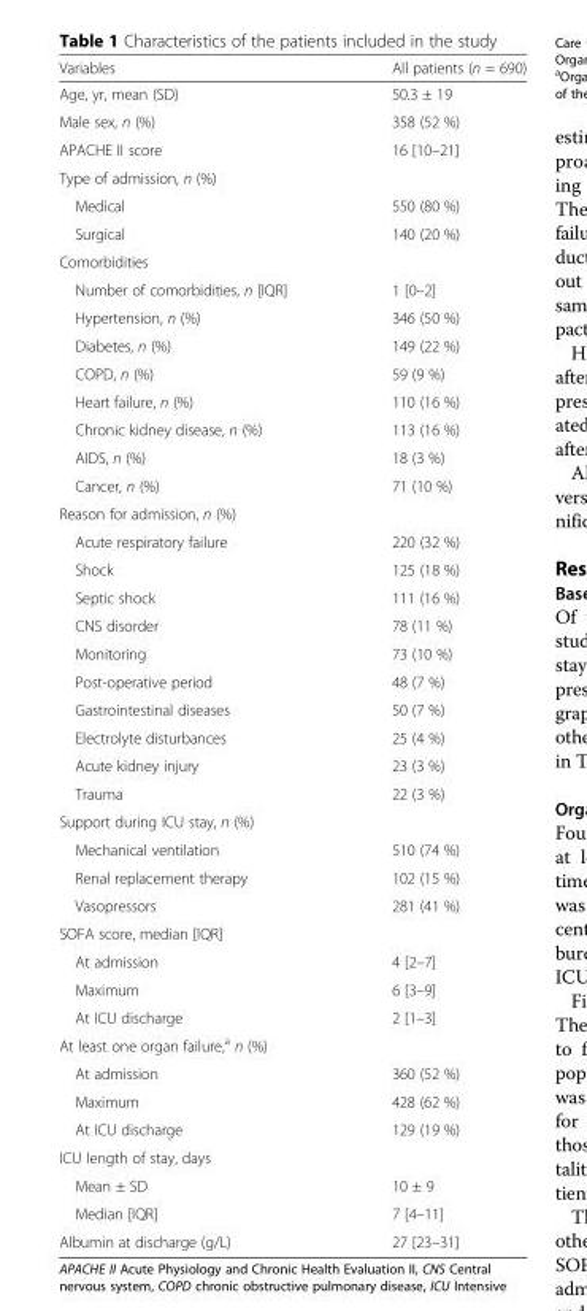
<table><thead><tr><td>Variables</td><td>All patients (n = 690)</td></tr></thead><tbody><tr><td>Age, yr, mean (SD)</td><td>50.3 ± 19</td></tr><tr><td>Male sex, n (%)</td><td>358 (52 %)</td></tr><tr><td>APACHE II score</td><td>16 [10–21]</td></tr><tr><td colspan="2">Type of admission, n (%)</td></tr><tr><td>Medical</td><td>550 (80 %)</td></tr><tr><td>Surgical</td><td>140 (20 %)</td></tr><tr><td colspan="2">Comorbidities</td></tr><tr><td>Number of comorbidities, n [IQR]</td><td>1 [0–2]</td></tr><tr><td>Hypertension, n (%)</td><td>346 (50 %)</td></tr><tr><td>Diabetes, n (%)</td><td>149 (22 %)</td></tr><tr><td>COPD, n (%)</td><td>59 (9 %)</td></tr><tr><td>Heart failure, n (%)</td><td>110 (16 %)</td></tr><tr><td>Chronic kidney disease, n (%)</td><td>113 (16 %)</td></tr><tr><td>AIDS, n (%)</td><td>18 (3 %)</td></tr><tr><td>Cancer, n (%)</td><td>71 (10 %)</td></tr><tr><td colspan="2">Reason for admission, n (%)</td></tr><tr><td>Acute respiratory failure</td><td>220 (32 %)</td></tr><tr><td>Shock</td><td>125 (18 %)</td></tr><tr><td>Septic shock</td><td>111 (16 %)</td></tr><tr><td>CNS disorder</td><td>78 (11 %)</td></tr><tr><td>Monitoring</td><td>73 (10 %)</td></tr><tr><td>Post-operative period</td><td>48 (7 %)</td></tr><tr><td>Gastrointestinal diseases</td><td>50 (7 %)</td></tr><tr><td>Electrolyte disturbances</td><td>25 (4 %)</td></tr><tr><td>Acute kidney injury</td><td>23 (3 %)</td></tr><tr><td>Trauma</td><td>22 (3 %)</td></tr><tr><td colspan="2">Support during ICU stay, n (%)</td></tr><tr><td>Mechanical ventilation</td><td>510 (74 %)</td></tr><tr><td>Renal replacement therapy</td><td>102 (15 %)</td></tr><tr><td>Vasopressors</td><td>281 (41 %)</td></tr><tr><td colspan="2">SOFA score, median [IQR]</td></tr><tr><td>At admission</td><td>4 [2–7]</td></tr><tr><td>Maximum</td><td>6 [3–9]</td></tr><tr><td>At ICU discharge</td><td>2 [1–3]</td></tr><tr><td colspan="2">At least one organ failure,<sup>a</sup> n (%)</td></tr><tr><td>At admission</td><td>360 (52 %)</td></tr><tr><td>Maximum</td><td>428 (62 %)</td></tr><tr><td>At ICU discharge</td><td>129 (19 %)</td></tr><tr><td colspan="2">ICU length of stay, days</td></tr><tr><td>Mean ± SD</td><td>10 ± 9</td></tr><tr><td>Median [IQR]</td><td>7 [4–11]</td></tr><tr><td>Albumin at discharge (g/L)</td><td>27 [23–31]</td></tr></tbody></table>